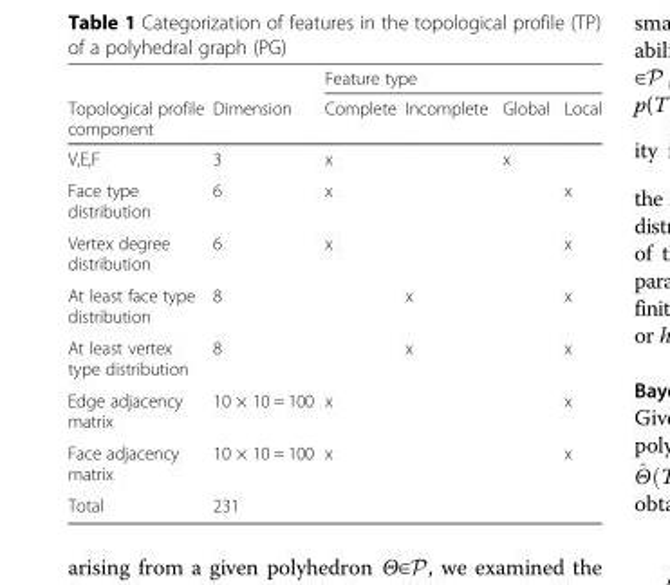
<table><thead><tr><td rowspan="2">Topological profile component</td><td rowspan="2">Dimension</td><td colspan="4">Feature type</td></tr><tr><td>Complete</td><td>Incomplete</td><td>Global</td><td>Local</td></tr></thead><tbody><tr><td>V,E,F</td><td>3</td><td>x</td><td></td><td>x</td><td></td></tr><tr><td>Face type distribution</td><td>6</td><td>x</td><td></td><td></td><td>x</td></tr><tr><td>Vertex degree distribution</td><td>6</td><td>x</td><td></td><td></td><td>x</td></tr><tr><td>At least face type distribution</td><td>8</td><td></td><td>x</td><td></td><td>x</td></tr><tr><td>At least vertex type distribution</td><td>8</td><td></td><td>x</td><td></td><td>x</td></tr><tr><td>Edge adjacency matrix</td><td>10 × 10 = 100</td><td>x</td><td></td><td></td><td>x</td></tr><tr><td>Face adjacency matrix</td><td>10 × 10 = 100</td><td>x</td><td></td><td></td><td>x</td></tr><tr><td>Total</td><td>231</td><td></td><td></td><td></td><td></td></tr></tbody></table>